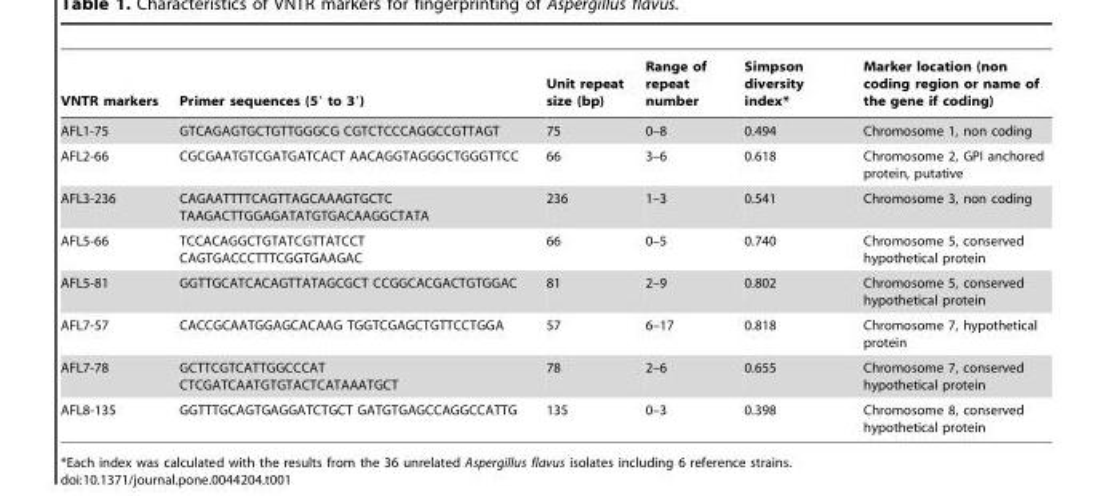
<table><thead><tr><td>VNTR markers</td><td>Primer sequences (5′ to 3′)</td><td>Unit repeat size (bp)</td><td>Range of repeat number</td><td>Simpson diversity index*</td><td>Marker location (non coding region or name of the gene if coding)</td></tr></thead><tbody><tr><td>AFL1-75</td><td>GTCAGAGTGCTGTTGGGCG CGTCTCCCAGGCCGTTAGT</td><td>75</td><td>0–8</td><td>0.494</td><td>Chromosome 1, non coding</td></tr><tr><td>AFL2-66</td><td>CGCGAATGTCGATGATCACT AACAGGTAGGGCTGGGTTCC</td><td>66</td><td>3–6</td><td>0.618</td><td>Chromosome 2, GPI anchored protein, putative</td></tr><tr><td>AFL3-236</td><td>CAGAATTTTCAGTTAGCAAAGTGCTC TAAGACTTGGAGATATGTGACAAGGCTATA</td><td>236</td><td>1–3</td><td>0.541</td><td>Chromosome 3, non coding</td></tr><tr><td>AFL5-66</td><td>TCCACAGGCTGTATCGTTATCCT CAGTGACCCTTTCGGTGAAGAC</td><td>66</td><td>0–5</td><td>0.740</td><td>Chromosome 5, conserved hypothetical protein</td></tr><tr><td>AFL5-81</td><td>GGTTGCATCACAGTTATAGCGCT CCGGCACGACTGTGGAC</td><td>81</td><td>2–9</td><td>0.802</td><td>Chromosome 5, conserved hypothetical protein</td></tr><tr><td>AFL7-57</td><td>CACCGCAATGGAGCACAAG TGGTCGAGCTGTTCCTGGA</td><td>57</td><td>6–17</td><td>0.818</td><td>Chromosome 7, hypothetical protein</td></tr><tr><td>AFL7-78</td><td>GCTTCGTCATTGGCCCAT CTCGATCAATGTGTACTCATAAATGCT</td><td>78</td><td>2–6</td><td>0.655</td><td>Chromosome 7, conserved hypothetical protein</td></tr><tr><td>AFL8-135</td><td>GGTTTGCAGTGAGGATCTGCT GATGTGAGCCAGGCCATTG</td><td>135</td><td>0–3</td><td>0.398</td><td>Chromosome 8, conserved hypothetical protein</td></tr></tbody></table>